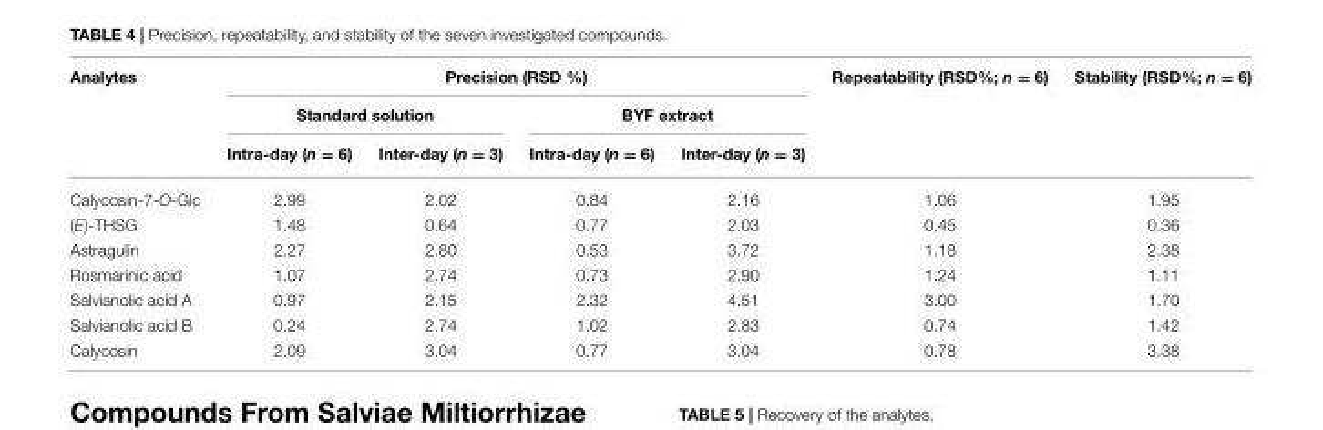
<table><thead><tr><td rowspan="3">Analytes</td><td colspan="4">Precision (RSD %)</td><td rowspan="3">Repeatability (RSD%; n = 6)</td><td rowspan="3">Stability (RSD%; n = 6)</td></tr><tr><td colspan="2">Standard solution</td><td colspan="2">BYF extract</td></tr><tr><td>Intra-day (n = 6)</td><td>Inter-day (n = 3)</td><td>Intra-day (n = 6)</td><td>Inter-day (n = 3)</td></tr></thead><tbody><tr><td>Calycosin-7-O-Glc</td><td>2.99</td><td>2.02</td><td>0.84</td><td>2.16</td><td>1.06</td><td>1.95</td></tr><tr><td>(E)-THSG</td><td>1.48</td><td>0.64</td><td>0.77</td><td>2.03</td><td>0.45</td><td>0.36</td></tr><tr><td>Astragulin</td><td>2.27</td><td>2.80</td><td>0.53</td><td>3.72</td><td>1.18</td><td>2.38</td></tr><tr><td>Rosmarinic acid</td><td>1.07</td><td>2.74</td><td>0.73</td><td>2.90</td><td>1.24</td><td>1.11</td></tr><tr><td>Salvianolic acid A</td><td>0.97</td><td>2.15</td><td>2.32</td><td>4.51</td><td>3.00</td><td>1.70</td></tr><tr><td>Salvianolic acid B</td><td>0.24</td><td>2.74</td><td>1.02</td><td>2.83</td><td>0.74</td><td>1.42</td></tr><tr><td>Calycosin</td><td>2.09</td><td>3.04</td><td>0.77</td><td>3.04</td><td>0.78</td><td>3.38</td></tr></tbody></table>